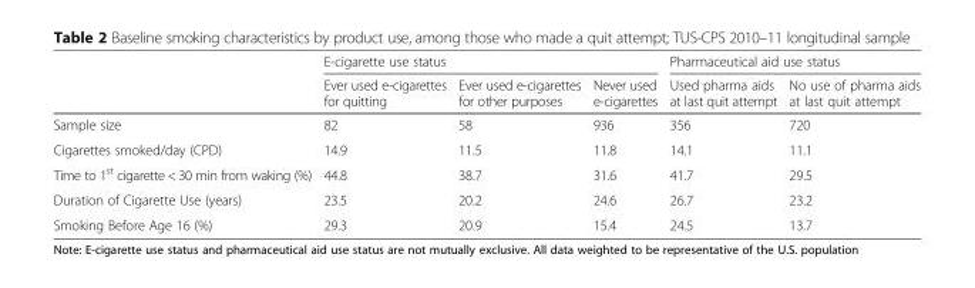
<table><thead><tr><td rowspan="2"></td><td colspan="3">E-cigarette use status</td><td colspan="2">Pharmaceutical aid use status</td></tr><tr><td>Ever used e-cigarettes for quitting</td><td>Ever used e-cigarettes for other purposes</td><td>Never used e-cigarettes</td><td>Used pharma aids at last quit attempt</td><td>No use of pharma aids at last quit attempt</td></tr></thead><tbody><tr><td>Sample size</td><td>82</td><td>58</td><td>936</td><td>356</td><td>720</td></tr><tr><td>Cigarettes smoked/day (CPD)</td><td>14.9</td><td>11.5</td><td>11.8</td><td>14.1</td><td>11.1</td></tr><tr><td>Time to 1<sup>st</sup> cigarette &lt; 30 min from waking (%)</td><td>44.8</td><td>38.7</td><td>31.6</td><td>41.7</td><td>29.5</td></tr><tr><td>Duration of Cigarette Use (years)</td><td>23.5</td><td>20.2</td><td>24.6</td><td>26.7</td><td>23.2</td></tr><tr><td>Smoking Before Age 16 (%)</td><td>29.3</td><td>20.9</td><td>15.4</td><td>24.5</td><td>13.7</td></tr></tbody></table>